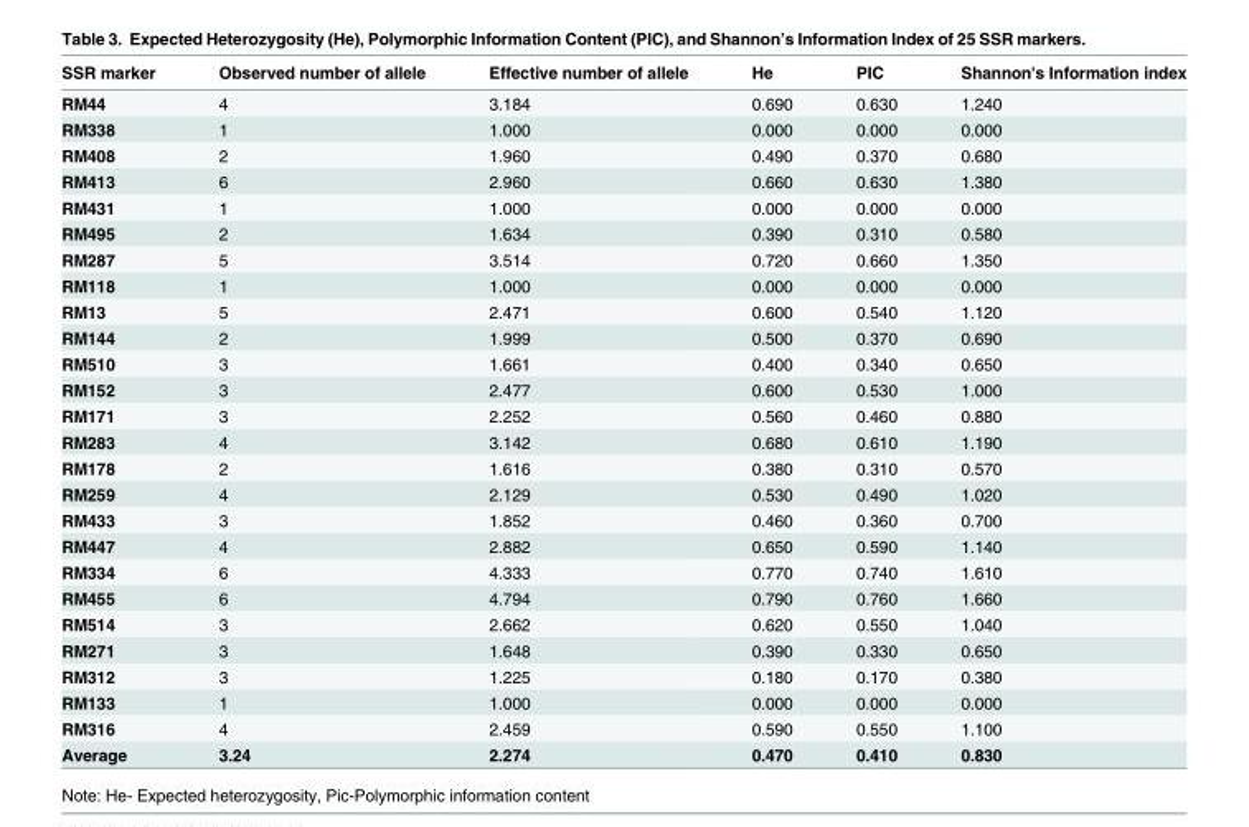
<table><thead><tr><td>SSR marker</td><td>Observed number of allele</td><td>Effective number of allele</td><td>He</td><td>PIC</td><td>Shannon&#x27;s Information index</td></tr></thead><tbody><tr><td>RM44</td><td>4</td><td>3.184</td><td>0.690</td><td>0.630</td><td>1.240</td></tr><tr><td>RM338</td><td>1</td><td>1.000</td><td>0.000</td><td>0.000</td><td>0.000</td></tr><tr><td>RM408</td><td>2</td><td>1.960</td><td>0.490</td><td>0.370</td><td>0.680</td></tr><tr><td>RM413</td><td>6</td><td>2.960</td><td>0.660</td><td>0.630</td><td>1.380</td></tr><tr><td>RM431</td><td>1</td><td>1.000</td><td>0.000</td><td>0.000</td><td>0.000</td></tr><tr><td>RM495</td><td>2</td><td>1.634</td><td>0.390</td><td>0.310</td><td>0.580</td></tr><tr><td>RM287</td><td>5</td><td>3.514</td><td>0.720</td><td>0.660</td><td>1.350</td></tr><tr><td>RM118</td><td>1</td><td>1.000</td><td>0.000</td><td>0.000</td><td>0.000</td></tr><tr><td>RM13</td><td>5</td><td>2.471</td><td>0.600</td><td>0.540</td><td>1.120</td></tr><tr><td>RM144</td><td>2</td><td>1.999</td><td>0.500</td><td>0.370</td><td>0.690</td></tr><tr><td>RM510</td><td>3</td><td>1.661</td><td>0.400</td><td>0.340</td><td>0.650</td></tr><tr><td>RM152</td><td>3</td><td>2.477</td><td>0.600</td><td>0.530</td><td>1.000</td></tr><tr><td>RM171</td><td>3</td><td>2.252</td><td>0.560</td><td>0.460</td><td>0.880</td></tr><tr><td>RM283</td><td>4</td><td>3.142</td><td>0.680</td><td>0.610</td><td>1.190</td></tr><tr><td>RM178</td><td>2</td><td>1.616</td><td>0.380</td><td>0.310</td><td>0.570</td></tr><tr><td>RM259</td><td>4</td><td>2.129</td><td>0.530</td><td>0.490</td><td>1.020</td></tr><tr><td>RM433</td><td>3</td><td>1.852</td><td>0.460</td><td>0.360</td><td>0.700</td></tr><tr><td>RM447</td><td>4</td><td>2.882</td><td>0.650</td><td>0.590</td><td>1.140</td></tr><tr><td>RM334</td><td>6</td><td>4.333</td><td>0.770</td><td>0.740</td><td>1.610</td></tr><tr><td>RM455</td><td>6</td><td>4.794</td><td>0.790</td><td>0.760</td><td>1.660</td></tr><tr><td>RM514</td><td>3</td><td>2.662</td><td>0.620</td><td>0.550</td><td>1.040</td></tr><tr><td>RM271</td><td>3</td><td>1.648</td><td>0.390</td><td>0.330</td><td>0.650</td></tr><tr><td>RM312</td><td>3</td><td>1.225</td><td>0.180</td><td>0.170</td><td>0.380</td></tr><tr><td>RM133</td><td>1</td><td>1.000</td><td>0.000</td><td>0.000</td><td>0.000</td></tr><tr><td>RM316</td><td>4</td><td>2.459</td><td>0.590</td><td>0.550</td><td>1.100</td></tr><tr><td>Average</td><td>3.24</td><td>2.274</td><td>0.470</td><td>0.410</td><td>0.830</td></tr></tbody></table>